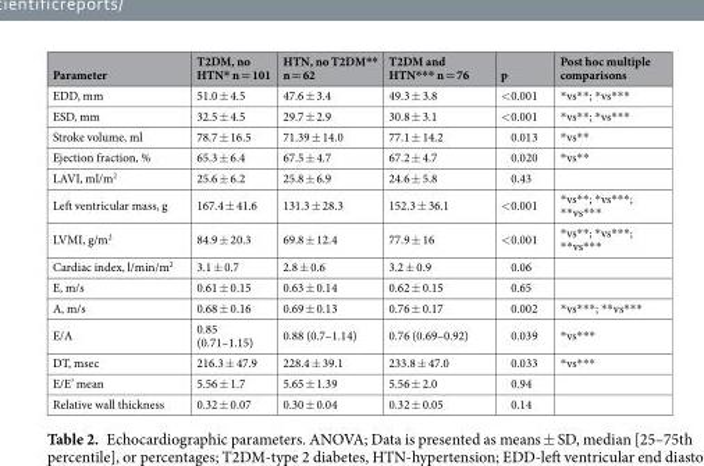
<table><thead><tr><td>Parameter</td><td>T2DM, no HTN* n = 101</td><td>HTN, no T2DM** n = 62</td><td>T2DM and HTN*** n = 76</td><td>p</td><td>Post hoc multiple comparisons</td></tr></thead><tbody><tr><td>EDD, mm</td><td>51.0 ± 4.5</td><td>47.6 ± 3.4</td><td>49.3 ± 3.8</td><td>&lt;0.001</td><td>*vs**; *vs***</td></tr><tr><td>ESD, mm</td><td>32.5 ± 4.5</td><td>29.7 ± 2.9</td><td>30.8 ± 3.1</td><td>&lt;0.001</td><td>*vs**; *vs***</td></tr><tr><td>Stroke volume, ml</td><td>78.7 ± 16.5</td><td>71.39 ± 14.0</td><td>77.1 ± 14.2</td><td>0.013</td><td>*vs**</td></tr><tr><td>Ejection fraction, %</td><td>65.3 ± 6.4</td><td>67.5 ± 4.7</td><td>67.2 ± 4.7</td><td>0.020</td><td>*vs**</td></tr><tr><td>LAVI, ml/m<sup>2</sup></td><td>25.6 ± 6.2</td><td>25.8 ± 6.9</td><td>24.6 ± 5.8</td><td>0.43</td><td></td></tr><tr><td>Left ventricular mass, g</td><td>167.4 ± 41.6</td><td>131.3 ± 28.3</td><td>152.3 ± 36.1</td><td>&lt;0.001</td><td>*vs**; *vs***; **vs***</td></tr><tr><td>LVMI, g/m<sup>2</sup></td><td>84.9 ± 20.3</td><td>69.8 ± 12.4</td><td>77.9 ± 16</td><td>&lt;0.001</td><td>*vs**; *vs***; **vs***</td></tr><tr><td>Cardiac index, l/min/m<sup>2</sup></td><td>3.1 ± 0.7</td><td>2.8 ± 0.6</td><td>3.2 ± 0.9</td><td>0.06</td><td></td></tr><tr><td>E, m/s</td><td>0.61 ± 0.15</td><td>0.63 ± 0.14</td><td>0.62 ± 0.15</td><td>0.65</td><td></td></tr><tr><td>A, m/s</td><td>0.68 ± 0.16</td><td>0.69 ± 0.13</td><td>0.76 ± 0.17</td><td>0.002</td><td>*vs***; **vs***</td></tr><tr><td>E/A</td><td>0.85 (0.71–1.15)</td><td>0.88 (0.7–1.14)</td><td>0.76 (0.69–0.92)</td><td>0.039</td><td>*vs***</td></tr><tr><td>DT, msec</td><td>216.3 ± 47.9</td><td>228.4 ± 39.1</td><td>233.8 ± 47.0</td><td>0.033</td><td>*vs***</td></tr><tr><td>E/E’ mean</td><td>5.56 ± 1.7</td><td>5.65 ± 1.39</td><td>5.56 ± 2.0</td><td>0.94</td><td></td></tr><tr><td>Relative wall thickness</td><td>0.32 ± 0.07</td><td>0.30 ± 0.04</td><td>0.32 ± 0.05</td><td>0.14</td><td></td></tr></tbody></table>